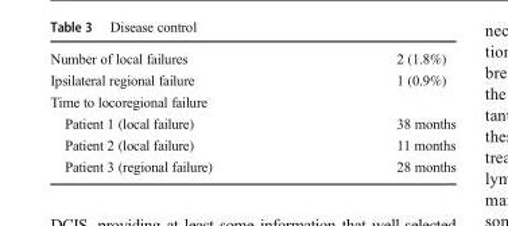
<table><tbody><tr><td>Number of local failures</td><td>2 (1.8%)</td></tr><tr><td>Ipsilateral regional failure</td><td>1 (0.9%)</td></tr><tr><td colspan="2">Time to locoregional failure</td></tr><tr><td>Patient 1 (local failure)</td><td>38 months</td></tr><tr><td>Patient 2 (local failure)</td><td>11 months</td></tr><tr><td>Patient 3 (regional failure)</td><td>28 months</td></tr></tbody></table>